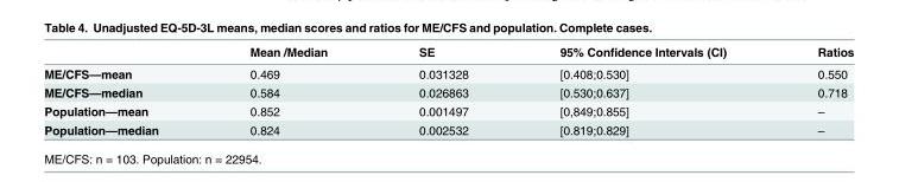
<table><thead><tr><td></td><td>Mean /Median</td><td>SE</td><td>95% Confidence Intervals (CI)</td><td>Ratios</td></tr></thead><tbody><tr><td>ME/CFS—mean</td><td>0.469</td><td>0.031328</td><td>[0.408;0.530]</td><td>0.550</td></tr><tr><td>ME/CFS—median</td><td>0.584</td><td>0.026863</td><td>[0.530;0.637]</td><td>0.718</td></tr><tr><td>Population—mean</td><td>0.852</td><td>0.001497</td><td>[0,849;0.855]</td><td>–</td></tr><tr><td>Population—median</td><td>0.824</td><td>0.002532</td><td>[0.819;0.829]</td><td>–</td></tr></tbody></table>